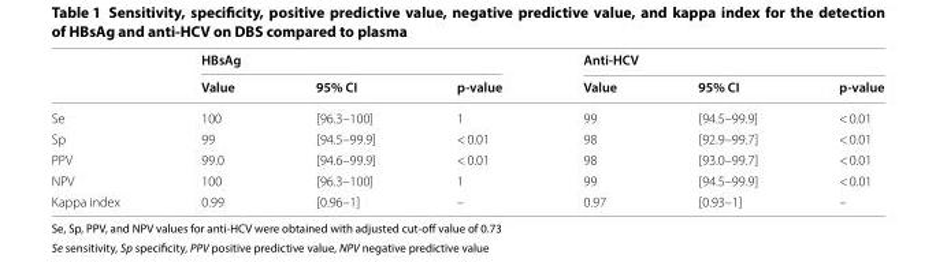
<table><thead><tr><td rowspan="2"></td><td colspan="3">HBsAg</td><td colspan="3">Anti-HCV</td></tr><tr><td>Value</td><td>95% CI</td><td>p-value</td><td>Value</td><td>95% CI</td><td>p-value</td></tr></thead><tbody><tr><td>Se</td><td>100</td><td>[96.3–100]</td><td>1</td><td>99</td><td>[94.5–99.9]</td><td>&lt; 0.01</td></tr><tr><td>Sp</td><td>99</td><td>[94.5–99.9]</td><td>&lt; 0.01</td><td>98</td><td>[92.9–99.7]</td><td>&lt; 0.01</td></tr><tr><td>PPV</td><td>99.0</td><td>[94.6–99.9]</td><td>&lt; 0.01</td><td>98</td><td>[93.0–99.7]</td><td>&lt; 0.01</td></tr><tr><td>NPV</td><td>100</td><td>[96.3–100]</td><td>1</td><td>99</td><td>[94.5–99.9]</td><td>&lt; 0.01</td></tr><tr><td>Kappa index</td><td>0.99</td><td>[0.96–1]</td><td>–</td><td>0.97</td><td>[0.93–1]</td><td>–</td></tr></tbody></table>